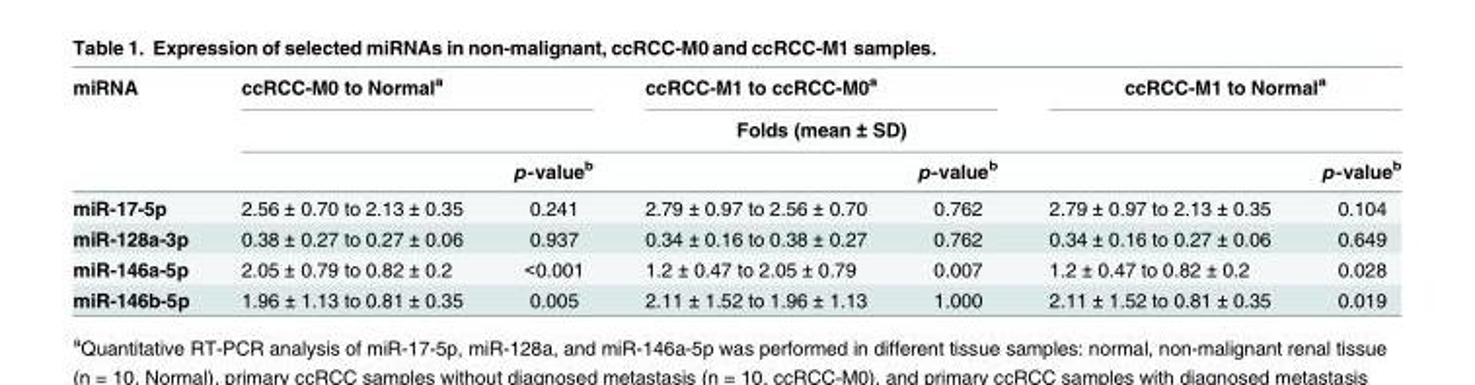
<table><thead><tr><td rowspan="3">miRNA</td><td colspan="2">ccRCC-M0 to Normal<sup>a</sup></td><td colspan="2">ccRCC-M1 to ccRCC-M0<sup>a</sup></td><td colspan="2">ccRCC-M1 to Normal<sup>a</sup></td></tr><tr><td colspan="6">Folds (mean ± SD)</td></tr><tr><td></td><td>p-value<sup>b</sup></td><td></td><td>p-value<sup>b</sup></td><td></td><td>p-value<sup>b</sup></td></tr></thead><tbody><tr><td>miR-17-5p</td><td>2.56 ± 0.70 to 2.13 ± 0.35</td><td>0.241</td><td>2.79 ± 0.97 to 2.56 ± 0.70</td><td>0.762</td><td>2.79 ± 0.97 to 2.13 ± 0.35</td><td>0.104</td></tr><tr><td>miR-128a-3p</td><td>0.38 ± 0.27 to 0.27 ± 0.06</td><td>0.937</td><td>0.34 ± 0.16 to 0.38 ± 0.27</td><td>0.762</td><td>0.34 ± 0.16 to 0.27 ± 0.06</td><td>0.649</td></tr><tr><td>miR-146a-5p</td><td>2.05 ± 0.79 to 0.82 ± 0.2</td><td>&lt;0.001</td><td>1.2 ± 0.47 to 2.05 ± 0.79</td><td>0.007</td><td>1.2 ± 0.47 to 0.82 ± 0.2</td><td>0.028</td></tr><tr><td>miR-146b-5p</td><td>1.96 ± 1.13 to 0.81 ± 0.35</td><td>0.005</td><td>2.11 ± 1.52 to 1.96 ± 1.13</td><td>1.000</td><td>2.11 ± 1.52 to 0.81 ± 0.35</td><td>0.019</td></tr></tbody></table>